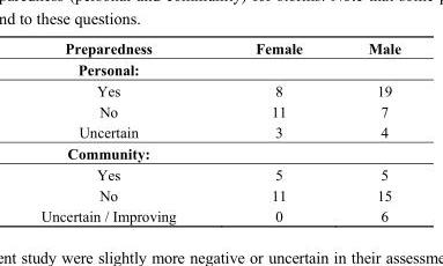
<table><thead><tr><td>Preparedness</td><td>Female</td><td>Male</td></tr></thead><tbody><tr><td colspan="3">Personal:</td></tr><tr><td>Yes</td><td>8</td><td>19</td></tr><tr><td>No</td><td>11</td><td>7</td></tr><tr><td>Uncertain</td><td>3</td><td>4</td></tr><tr><td colspan="3">Community:</td></tr><tr><td>Yes</td><td>5</td><td>5</td></tr><tr><td>No</td><td>11</td><td>15</td></tr><tr><td>Uncertain / Improving</td><td>0</td><td>6</td></tr></tbody></table>